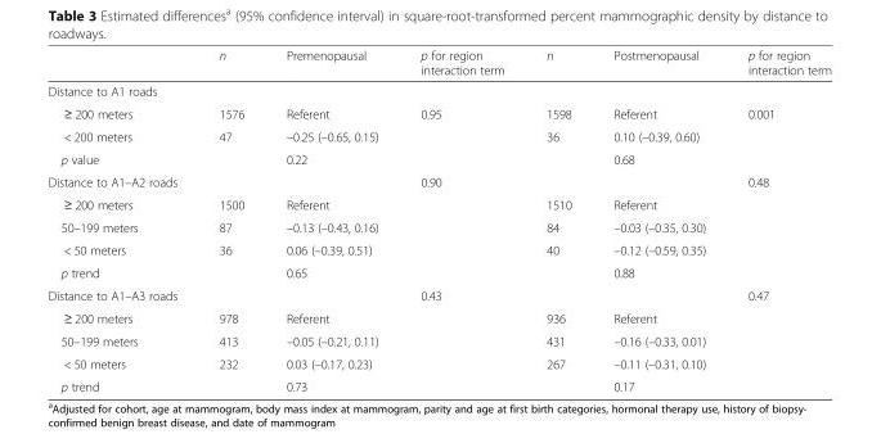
<table><thead><tr><td></td><td>n</td><td>Premenopausal</td><td>p for region interaction term</td><td>n</td><td>Postmenopausal</td><td>p for region interaction term</td></tr></thead><tbody><tr><td colspan="7">Distance to A1 roads</td></tr><tr><td>≥ 200 meters</td><td>1576</td><td>Referent</td><td>0.95</td><td>1598</td><td>Referent</td><td>0.001</td></tr><tr><td>&lt; 200 meters</td><td>47</td><td>–0.25 (–0.65, 0.15)</td><td></td><td>36</td><td>0.10 (–0.39, 0.60)</td><td></td></tr><tr><td>p value</td><td></td><td>0.22</td><td></td><td></td><td>0.68</td><td></td></tr><tr><td>Distance to A1–A2 roads</td><td></td><td></td><td>0.90</td><td></td><td></td><td>0.48</td></tr><tr><td>≥ 200 meters</td><td>1500</td><td>Referent</td><td></td><td>1510</td><td>Referent</td><td></td></tr><tr><td>50–199 meters</td><td>87</td><td>–0.13 (–0.43, 0.16)</td><td></td><td>84</td><td>–0.03 (–0.35, 0.30)</td><td></td></tr><tr><td>&lt; 50 meters</td><td>36</td><td>0.06 (–0.39, 0.51)</td><td></td><td>40</td><td>–0.12 (–0.59, 0.35)</td><td></td></tr><tr><td>p trend</td><td></td><td>0.65</td><td></td><td></td><td>0.88</td><td></td></tr><tr><td>Distance to A1–A3 roads</td><td></td><td></td><td>0.43</td><td></td><td></td><td>0.47</td></tr><tr><td>≥ 200 meters</td><td>978</td><td>Referent</td><td></td><td>936</td><td>Referent</td><td></td></tr><tr><td>50–199 meters</td><td>413</td><td>–0.05 (–0.21, 0.11)</td><td></td><td>431</td><td>–0.16 (–0.33, 0.01)</td><td></td></tr><tr><td>&lt; 50 meters</td><td>232</td><td>0.03 (–0.17, 0.23)</td><td></td><td>267</td><td>–0.11 (–0.31, 0.10)</td><td></td></tr><tr><td>p trend</td><td></td><td>0.73</td><td></td><td></td><td>0.17</td><td></td></tr></tbody></table>